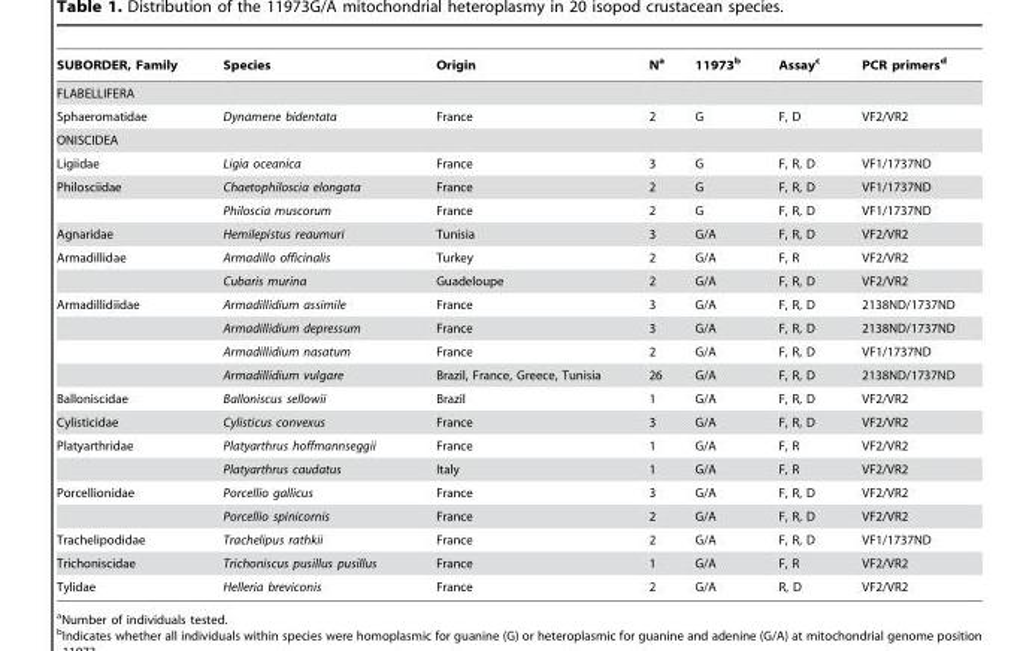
<table><thead><tr><td>SUBORDER, Family</td><td>Species</td><td>Origin</td><td>N<sup>a</sup></td><td>11973<sup>b</sup></td><td>Assay<sup>c</sup></td><td>PCR primers<sup>d</sup></td></tr></thead><tbody><tr><td colspan="7">FLABELLIFERA</td></tr><tr><td>Sphaeromatidae</td><td>Dynamene bidentata</td><td>France</td><td>2</td><td>G</td><td>F, D</td><td>VF2/VR2</td></tr><tr><td colspan="7">ONISCIDEA</td></tr><tr><td>Ligiidae</td><td>Ligia oceanica</td><td>France</td><td>3</td><td>G</td><td>F, R, D</td><td>VF1/1737ND</td></tr><tr><td rowspan="2">Philosciidae</td><td>Chaetophiloscia elongata</td><td>France</td><td>2</td><td>G</td><td>F, R, D</td><td>VF1/1737ND</td></tr><tr><td>Philoscia muscorum</td><td>France</td><td>2</td><td>G</td><td>F, R, D</td><td>VF1/1737ND</td></tr><tr><td>Agnaridae</td><td>Hemilepistus reaumuri</td><td>Tunisia</td><td>3</td><td>G/A</td><td>F, R, D</td><td>VF2/VR2</td></tr><tr><td rowspan="2">Armadillidae</td><td>Armadillo officinalis</td><td>Turkey</td><td>2</td><td>G/A</td><td>F, R</td><td>VF2/VR2</td></tr><tr><td>Cubaris murina</td><td>Guadeloupe</td><td>2</td><td>G/A</td><td>F, R, D</td><td>VF2/VR2</td></tr><tr><td rowspan="4">Armadillidiidae</td><td>Armadillidium assimile</td><td>France</td><td>3</td><td>G/A</td><td>F, R, D</td><td>2138ND/1737ND</td></tr><tr><td>Armadillidium depressum</td><td>France</td><td>3</td><td>G/A</td><td>F, R, D</td><td>2138ND/1737ND</td></tr><tr><td>Armadillidium nasatum</td><td>France</td><td>2</td><td>G/A</td><td>F, R, D</td><td>VF1/1737ND</td></tr><tr><td>Armadillidium vulgare</td><td>Brazil, France, Greece, Tunisia</td><td>26</td><td>G/A</td><td>F, R, D</td><td>2138ND/1737ND</td></tr><tr><td>Balloniscidae</td><td>Balloniscus sellowii</td><td>Brazil</td><td>1</td><td>G/A</td><td>F, R, D</td><td>VF2/VR2</td></tr><tr><td>Cylisticidae</td><td>Cylisticus convexus</td><td>France</td><td>3</td><td>G/A</td><td>F, R, D</td><td>VF2/VR2</td></tr><tr><td rowspan="2">Platyarthridae</td><td>Platyarthrus hoffmannseggii</td><td>France</td><td>1</td><td>G/A</td><td>F, R</td><td>VF2/VR2</td></tr><tr><td>Platyarthrus caudatus</td><td>Italy</td><td>1</td><td>G/A</td><td>F, R</td><td>VF2/VR2</td></tr><tr><td rowspan="2">Porcellionidae</td><td>Porcellio gallicus</td><td>France</td><td>3</td><td>G/A</td><td>F, R, D</td><td>VF2/VR2</td></tr><tr><td>Porcellio spinicornis</td><td>France</td><td>2</td><td>G/A</td><td>F, R, D</td><td>VF2/VR2</td></tr><tr><td>Trachelipodidae</td><td>Trachelipus rathkii</td><td>France</td><td>2</td><td>G/A</td><td>F, R, D</td><td>VF1/1737ND</td></tr><tr><td>Trichoniscidae</td><td>Trichoniscus pusillus pusillus</td><td>France</td><td>1</td><td>G/A</td><td>F, R</td><td>VF2/VR2</td></tr><tr><td>Tylidae</td><td>Helleria breviconis</td><td>France</td><td>2</td><td>G/A</td><td>R, D</td><td>VF2/VR2</td></tr></tbody></table>